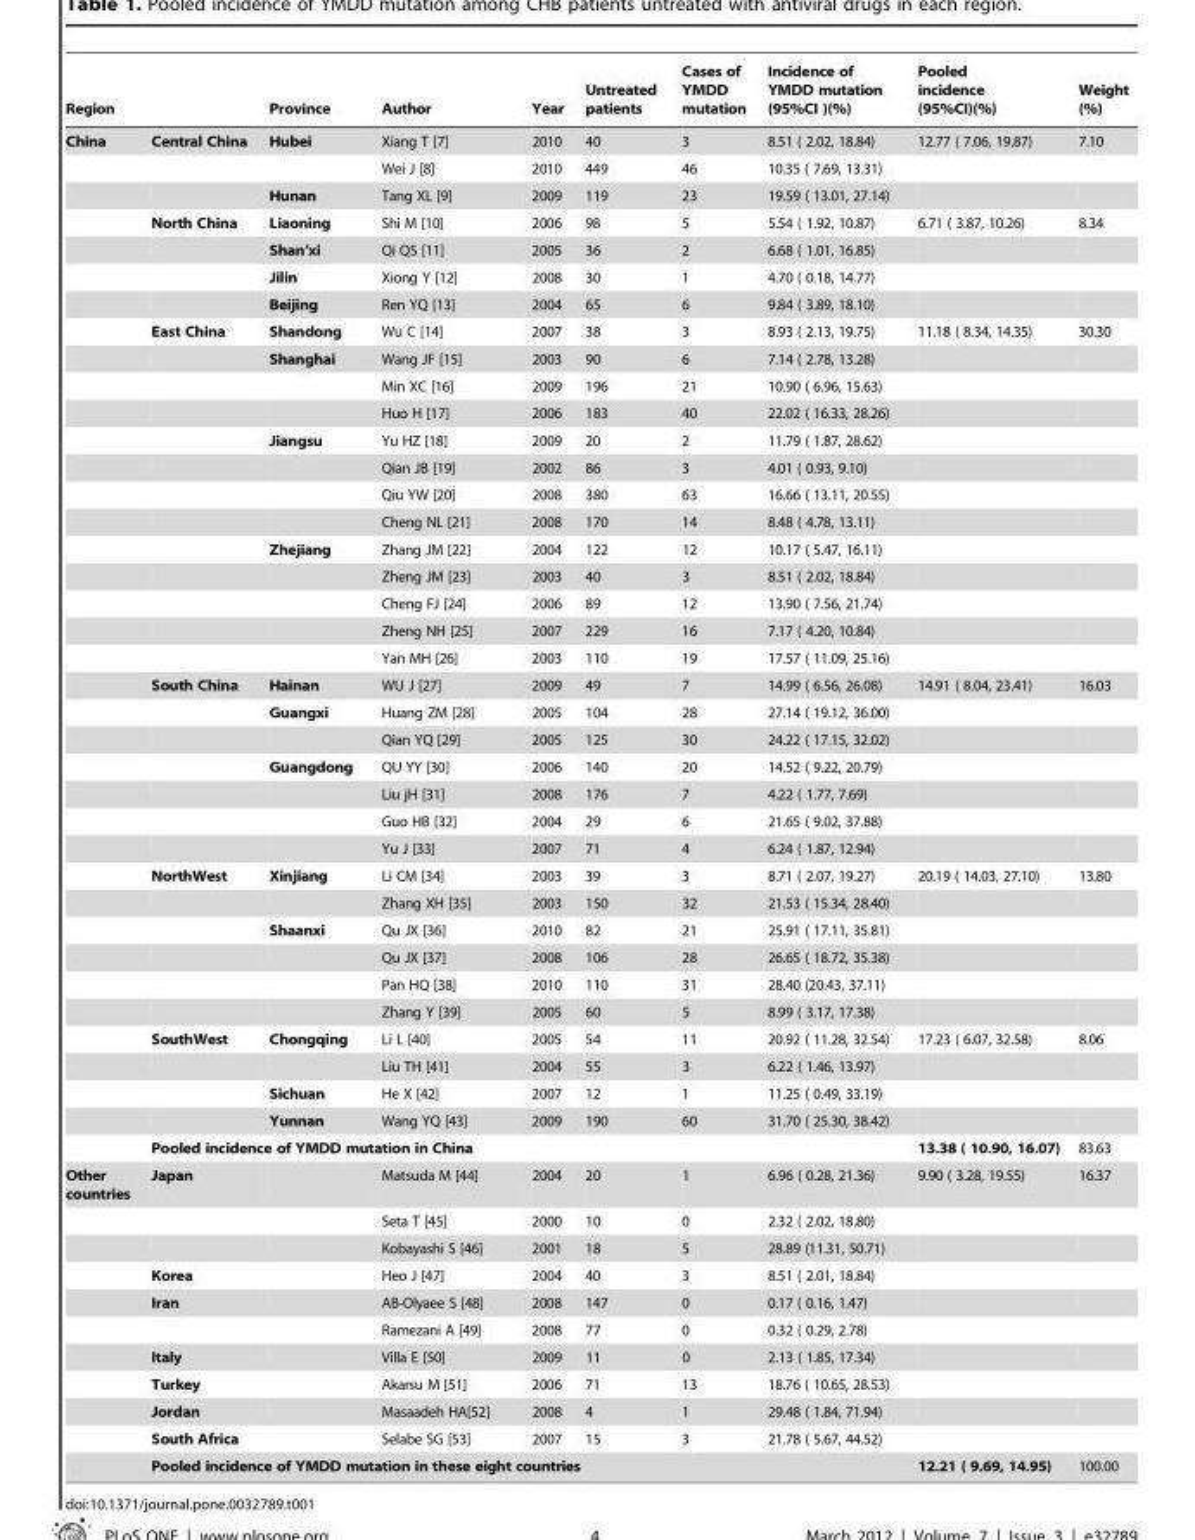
<table><thead><tr><td colspan="2">Region</td><td rowspan="2">Province Hubei</td><td rowspan="2">Author Xiang T [7]</td><td rowspan="2">Year 2010</td><td rowspan="2">Untreated patients 40</td><td rowspan="2">Cases of YMDD mutation 3</td><td rowspan="2">Incidence of YMDD mutation (95%CI )(%) 8.51 ( 2.02, 18.84)</td><td rowspan="2">Pooled incidence (95%CI)(%) 12.77 ( 7.06, 19.87)</td><td rowspan="2">Weight (%) 7.10</td></tr><tr><td>China</td><td>Central China</td></tr></thead><tbody><tr><td></td><td></td><td></td><td>Wei J [8]</td><td>2010</td><td>449</td><td>46</td><td>10.35 ( 7.69, 13.31)</td><td></td><td></td></tr><tr><td></td><td></td><td>Hunan</td><td>Tang XL [9]</td><td>2009</td><td>119</td><td>23</td><td>19.59 ( 13.01, 27.14)</td><td></td><td></td></tr><tr><td></td><td>North China</td><td>Liaoning</td><td>Shi M [10]</td><td>2006</td><td>98</td><td>5</td><td>5.54 ( 1.92, 10.87)</td><td>6.71 ( 3.87, 10.26)</td><td>8.34</td></tr><tr><td></td><td></td><td>Shan’xi</td><td>Qi QS [11]</td><td>2005</td><td>36</td><td>2</td><td>6.68 ( 1.01, 16.85)</td><td></td><td></td></tr><tr><td></td><td></td><td>Jilin</td><td>Xiong Y [12]</td><td>2008</td><td>30</td><td>1</td><td>4.70 ( 0.18, 14.77)</td><td></td><td></td></tr><tr><td></td><td></td><td>Beijing</td><td>Ren YQ [13]</td><td>2004</td><td>65</td><td>6</td><td>9.84 ( 3.89, 18.10)</td><td></td><td></td></tr><tr><td></td><td>East China</td><td>Shandong</td><td>Wu C [14]</td><td>2007</td><td>38</td><td>3</td><td>8.93 ( 2.13, 19.75)</td><td>11.18 ( 8.34, 14.35)</td><td>30.30</td></tr><tr><td></td><td></td><td>Shanghai</td><td>Wang JF [15]</td><td>2003</td><td>90</td><td>6</td><td>7.14 ( 2.78, 13.28)</td><td></td><td></td></tr><tr><td></td><td></td><td></td><td>Min XC [16]</td><td>2009</td><td>196</td><td>21</td><td>10.90 ( 6.96, 15.63)</td><td></td><td></td></tr><tr><td></td><td></td><td></td><td>Huo H [17]</td><td>2006</td><td>183</td><td>40</td><td>22.02 ( 16.33, 28.26)</td><td></td><td></td></tr><tr><td></td><td></td><td>Jiangsu</td><td>Yu HZ [18]</td><td>2009</td><td>20</td><td>2</td><td>11.79 ( 1.87, 28.62)</td><td></td><td></td></tr><tr><td></td><td></td><td></td><td>Qian JB [19]</td><td>2002</td><td>86</td><td>3</td><td>4.01 ( 0.93, 9.10)</td><td></td><td></td></tr><tr><td></td><td></td><td></td><td>Qiu YW [20]</td><td>2008</td><td>380</td><td>63</td><td>16.66 ( 13.11, 20.55)</td><td></td><td></td></tr><tr><td></td><td></td><td></td><td>Cheng NL [21]</td><td>2008</td><td>170</td><td>14</td><td>8.48 ( 4.78, 13.11)</td><td></td><td></td></tr><tr><td></td><td></td><td>Zhejiang</td><td>Zhang JM [22]</td><td>2004</td><td>122</td><td>12</td><td>10.17 ( 5.47, 16.11)</td><td></td><td></td></tr><tr><td></td><td></td><td></td><td>Zheng JM [23]</td><td>2003</td><td>40</td><td>3</td><td>8.51 ( 2.02, 18.84)</td><td></td><td></td></tr><tr><td></td><td></td><td></td><td>Cheng FJ [24]</td><td>2006</td><td>89</td><td>12</td><td>13.90 ( 7.56, 21.74)</td><td></td><td></td></tr><tr><td></td><td></td><td></td><td>Zheng NH [25]</td><td>2007</td><td>229</td><td>16</td><td>7.17 ( 4.20, 10.84)</td><td></td><td></td></tr><tr><td></td><td></td><td></td><td>Yan MH [26]</td><td>2003</td><td>110</td><td>19</td><td>17.57 ( 11.09, 25.16)</td><td></td><td></td></tr><tr><td></td><td>South China</td><td>Hainan</td><td>WU J [27]</td><td>2009</td><td>49</td><td>7</td><td>14.99 ( 6.56, 26.08)</td><td>14.91 ( 8.04, 23.41)</td><td>16.03</td></tr><tr><td></td><td></td><td>Guangxi</td><td>Huang ZM [28]</td><td>2005</td><td>104</td><td>28</td><td>27.14 ( 19.12, 36.00)</td><td></td><td></td></tr><tr><td></td><td></td><td></td><td>Qian YQ [29]</td><td>2005</td><td>125</td><td>30</td><td>24.22 ( 17.15, 32.02)</td><td></td><td></td></tr><tr><td></td><td></td><td>Guangdong</td><td>QU YY [30]</td><td>2006</td><td>140</td><td>20</td><td>14.52 ( 9.22, 20.79)</td><td></td><td></td></tr><tr><td></td><td></td><td></td><td>Liu jH [31]</td><td>2008</td><td>176</td><td>7</td><td>4.22 ( 1.77, 7.69)</td><td></td><td></td></tr><tr><td></td><td></td><td></td><td>Guo HB [32]</td><td>2004</td><td>29</td><td>6</td><td>21.65 ( 9.02, 37.88)</td><td></td><td></td></tr><tr><td></td><td></td><td></td><td>Yu J [33]</td><td>2007</td><td>71</td><td>4</td><td>6.24 ( 1.87, 12.94)</td><td></td><td></td></tr><tr><td></td><td>NorthWest</td><td>Xinjiang</td><td>Li CM [34]</td><td>2003</td><td>39</td><td>3</td><td>8.71 ( 2.07, 19.27)</td><td>20.19 ( 14.03, 27.10)</td><td>13.80</td></tr><tr><td></td><td></td><td></td><td>Zhang XH [35]</td><td>2003</td><td>150</td><td>32</td><td>21.53 ( 15.34, 28.40)</td><td></td><td></td></tr><tr><td></td><td></td><td>Shaanxi</td><td>Qu JX [36]</td><td>2010</td><td>82</td><td>21</td><td>25.91 ( 17.11, 35.81)</td><td></td><td></td></tr><tr><td></td><td></td><td></td><td>Qu JX [37]</td><td>2008</td><td>106</td><td>28</td><td>26.65 ( 18.72, 35.38)</td><td></td><td></td></tr><tr><td></td><td></td><td></td><td>Pan HQ [38]</td><td>2010</td><td>110</td><td>31</td><td>28.40 (20.43, 37.11)</td><td></td><td></td></tr><tr><td></td><td></td><td></td><td>Zhang Y [39]</td><td>2005</td><td>60</td><td>5</td><td>8.99 ( 3.17, 17.38)</td><td></td><td></td></tr><tr><td></td><td>SouthWest</td><td>Chongqing</td><td>Li L [40]</td><td>2005</td><td>54</td><td>11</td><td>20.92 ( 11.28, 32.54)</td><td>17.23 ( 6.07, 32.58)</td><td>8.06</td></tr><tr><td></td><td></td><td></td><td>Liu TH [41]</td><td>2004</td><td>55</td><td>3</td><td>6.22 ( 1.46, 13.97)</td><td></td><td></td></tr><tr><td></td><td></td><td>Sichuan</td><td>He X [42]</td><td>2007</td><td>12</td><td>1</td><td>11.25 ( 0.49, 33.19)</td><td></td><td></td></tr><tr><td></td><td></td><td>Yunnan</td><td>Wang YQ [43]</td><td>2009</td><td>190</td><td>60</td><td>31.70 ( 25.30, 38.42)</td><td></td><td></td></tr><tr><td></td><td colspan="7">Pooled incidence of YMDD mutation in China</td><td>13.38 ( 10.90, 16.07)</td><td>83.63</td></tr><tr><td rowspan="11">Other countries</td><td>Japan</td><td></td><td>Matsuda M [44]</td><td>2004</td><td>20</td><td>1</td><td>6.96 ( 0.28, 21.36)</td><td>9.90 ( 3.28, 19.55)</td><td>16.37</td></tr><tr><td></td><td></td><td>Seta T [45]</td><td>2000</td><td>10</td><td>0</td><td>2.32 ( 2.02, 18.80)</td><td></td><td></td></tr><tr><td></td><td></td><td>Kobayashi S [46]</td><td>2001</td><td>18</td><td>5</td><td>28.89 (11.31, 50.71)</td><td></td><td></td></tr><tr><td>Korea</td><td></td><td>Heo J [47]</td><td>2004</td><td>40</td><td>3</td><td>8.51 ( 2.01, 18.84)</td><td></td><td></td></tr><tr><td>Iran</td><td></td><td>AB-Olyaee S [48]</td><td>2008</td><td>147</td><td>0</td><td>0.17 ( 0.16, 1.47)</td><td></td><td></td></tr><tr><td></td><td></td><td>Ramezani A [49]</td><td>2008</td><td>77</td><td>0</td><td>0.32 ( 0.29, 2.78)</td><td></td><td></td></tr><tr><td>Italy</td><td></td><td>Villa E [50]</td><td>2009</td><td>11</td><td>0</td><td>2.13 ( 1.85, 17.34)</td><td></td><td></td></tr><tr><td>Turkey</td><td></td><td>Akarsu M [51]</td><td>2006</td><td>71</td><td>13</td><td>18.76 ( 10.65, 28.53)</td><td></td><td></td></tr><tr><td>Jordan</td><td></td><td>Masaadeh HA[52]</td><td>2008</td><td>4</td><td>1</td><td>29.48 ( 1.84, 71.94)</td><td></td><td></td></tr><tr><td>South Africa</td><td></td><td>Selabe SG [53]</td><td>2007</td><td>15</td><td>3</td><td>21.78 ( 5.67, 44.52)</td><td></td><td></td></tr><tr><td colspan="7">Pooled incidence of YMDD mutation in these eight countries</td><td>12.21 ( 9.69, 14.95)</td><td>100.00</td></tr></tbody></table>